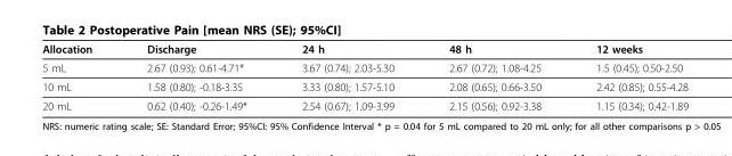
<table><thead><tr><td>Allocation</td><td>Discharge</td><td>24 h</td><td>48 h</td><td>12 weeks</td></tr></thead><tbody><tr><td>5 mL</td><td>2.67 (0.93); 0.61-4.71*</td><td>3.67 (0.74); 2.03-5.30</td><td>2.67 (0.72); 1.08-4.25</td><td>1.5 (0.45); 0.50-2.50</td></tr><tr><td>10 mL</td><td>1.58 (0.80); -0.18-3.35</td><td>3.33 (0.80); 1.57-5.10</td><td>2.08 (0.65); 0.66-3.50</td><td>2.42 (0.85); 0.55-4.28</td></tr><tr><td>20 mL</td><td>0.62 (0.40); -0.26-1.49*</td><td>2.54 (0.67); 1.09-3.99</td><td>2.15 (0.56); 0.92-3.38</td><td>1.15 (0.34); 0.42-1.89</td></tr></tbody></table>